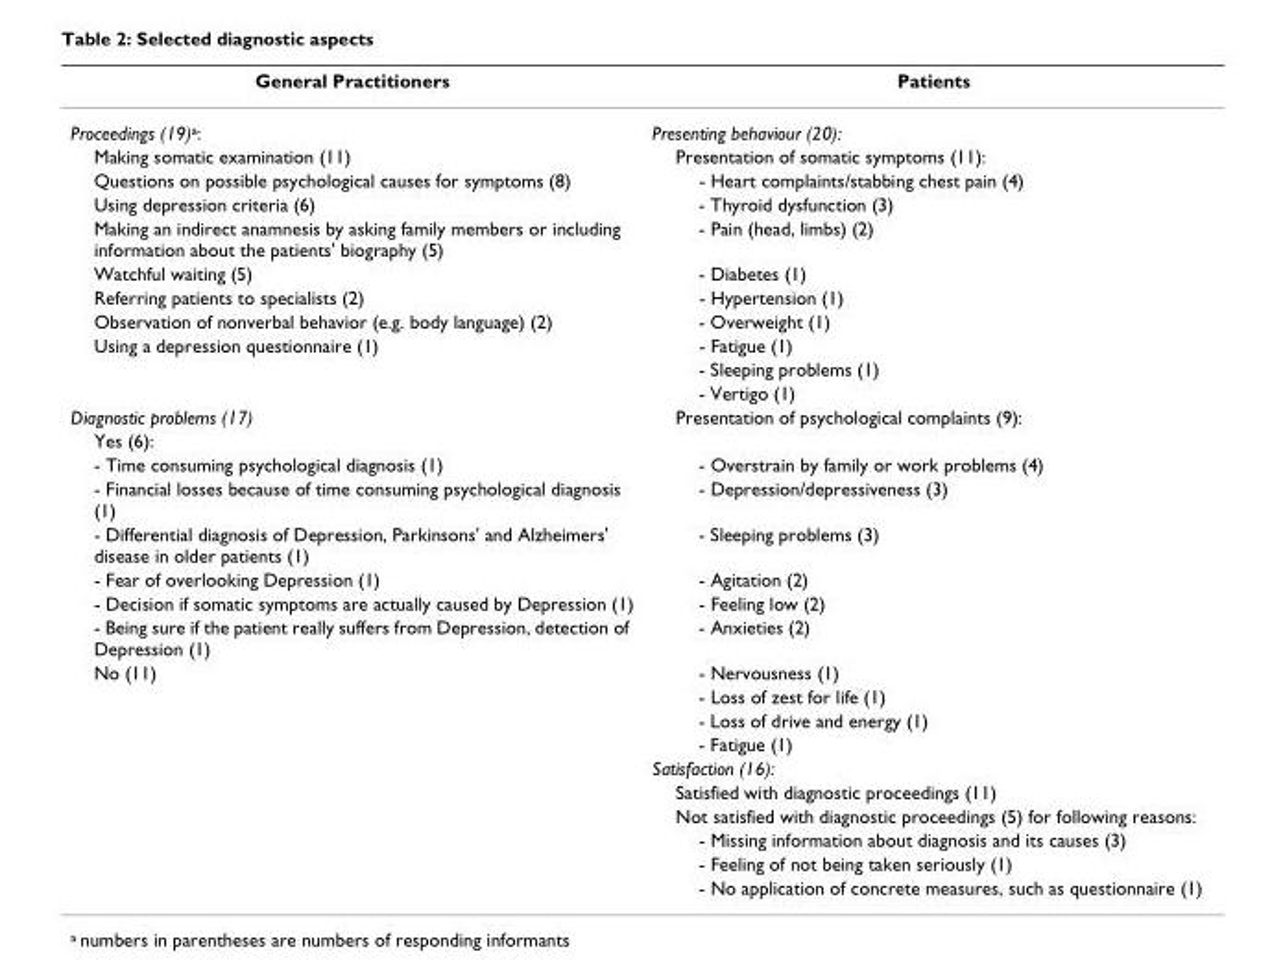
<table><thead><tr><td>General Practitioners</td><td>Patients</td></tr></thead><tbody><tr><td>Proceedings (19)<sup>a</sup>:</td><td>Presenting behaviour (20):</td></tr><tr><td>Making somatic examination (11)</td><td>Presentation of somatic symptoms (11):</td></tr><tr><td>Questions on possible psychological causes for symptoms (8)</td><td>- Heart complaints/stabbing chest pain (4)</td></tr><tr><td>Using depression criteria (6)</td><td>- Thyroid dysfunction (3)</td></tr><tr><td>Making an indirect anamnesis by asking family members or including information about the patients&#x27; biography (5)</td><td>- Pain (head, limbs) (2)</td></tr><tr><td>Watchful waiting (5)</td><td>- Diabetes (1)</td></tr><tr><td>Referring patients to specialists (2)</td><td>- Hypertension (1)</td></tr><tr><td>Observation of nonverbal behavior (e.g. body language) (2)</td><td>- Overweight (1)</td></tr><tr><td rowspan="3">Using a depression questionnaire (1)</td><td>- Fatigue (1)</td></tr><tr><td>- Sleeping problems (1)</td></tr><tr><td>- Vertigo (1)</td></tr><tr><td>Diagnostic problems (17)</td><td>Presentation of psychological complaints (9):</td></tr><tr><td colspan="2">Yes (6):</td></tr><tr><td>- Time consuming psychological diagnosis (1)</td><td>- Overstrain by family or work problems (4)</td></tr><tr><td>- Financial losses because of time consuming psychological diagnosis (1)</td><td>- Depression/depressiveness (3)</td></tr><tr><td>- Differential diagnosis of Depression, Parkinsons&#x27; and Alzheimers&#x27; disease in older patients (1)</td><td>- Sleeping problems (3)</td></tr><tr><td>- Fear of overlooking Depression (1)</td><td>- Agitation (2)</td></tr><tr><td>- Decision if somatic symptoms are actually caused by Depression (1)</td><td>- Feeling low (2)</td></tr><tr><td>- Being sure if the patient really suffers from Depression, detection of Depression (1)</td><td>- Anxieties (2)</td></tr><tr><td rowspan="10">No (11)</td><td>- Nervousness (1)</td></tr><tr><td>- Loss of zest for life (1)</td></tr><tr><td>- Loss of drive and energy (1)</td></tr><tr><td>- Fatigue (1)</td></tr><tr><td>Satisfaction (16):</td></tr><tr><td>Satisfied with diagnostic proceedings (11)</td></tr><tr><td>Not satisfied with diagnostic proceedings (5) for following reasons:</td></tr><tr><td>- Missing information about diagnosis and its causes (3)</td></tr><tr><td>- Feeling of not being taken seriously (1)</td></tr><tr><td>- No application of concrete measures, such as questionnaire (1)</td></tr></tbody></table>